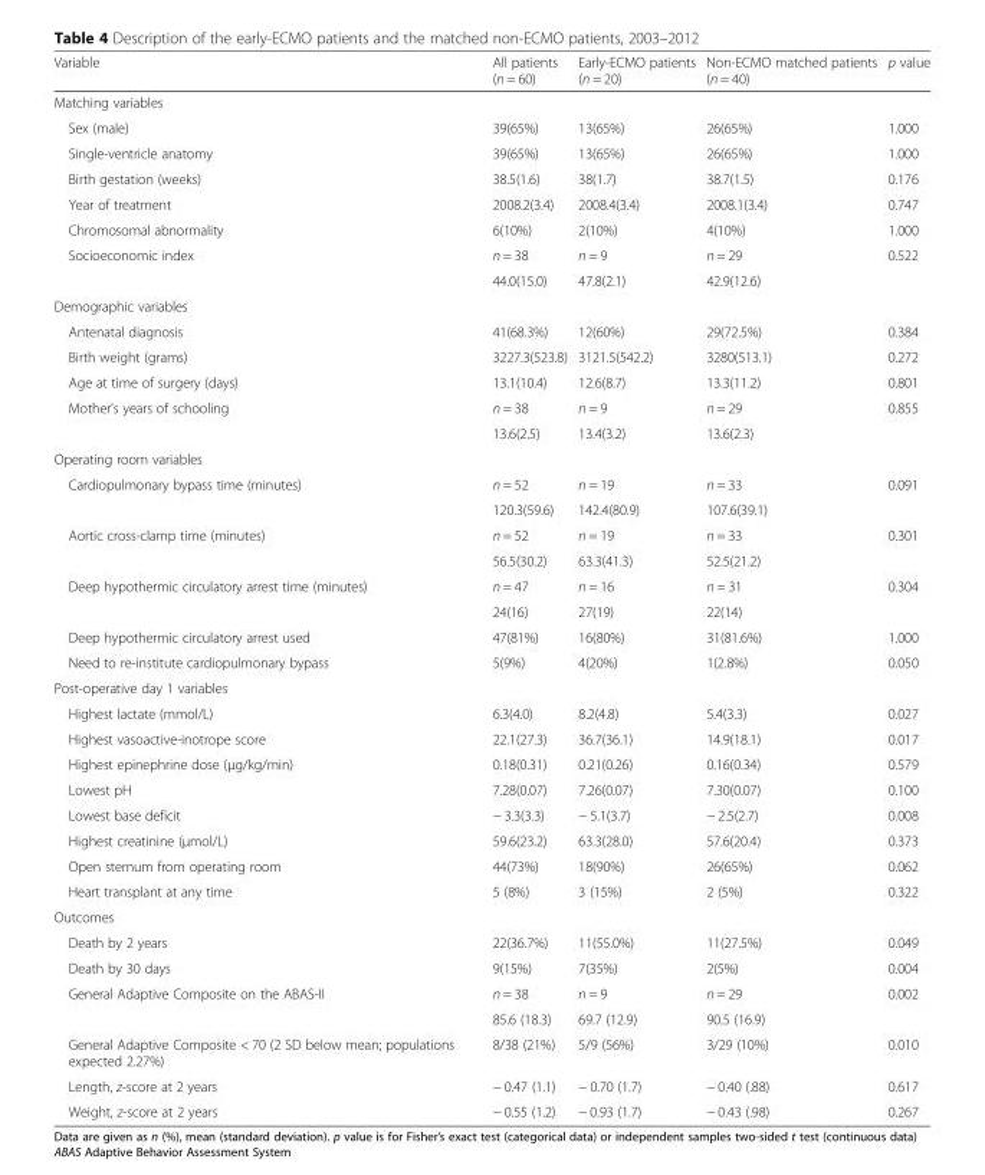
<table><thead><tr><td>Variable</td><td>All patients (n = 60)</td><td>Early-ECMO patients (n = 20)</td><td>Non-ECMO matched patients (n = 40)</td><td>p value</td></tr></thead><tbody><tr><td colspan="5">Matching variables</td></tr><tr><td>Sex (male)</td><td>39(65%)</td><td>13(65%)</td><td>26(65%)</td><td>1.000</td></tr><tr><td>Single-ventricle anatomy</td><td>39(65%)</td><td>13(65%)</td><td>26(65%)</td><td>1.000</td></tr><tr><td>Birth gestation (weeks)</td><td>38.5(1.6)</td><td>38(1.7)</td><td>38.7(1.5)</td><td>0.176</td></tr><tr><td>Year of treatment</td><td>2008.2(3.4)</td><td>2008.4(3.4)</td><td>2008.1(3.4)</td><td>0.747</td></tr><tr><td>Chromosomal abnormality</td><td>6(10%)</td><td>2(10%)</td><td>4(10%)</td><td>1.000</td></tr><tr><td rowspan="2">Socioeconomic index</td><td>n = 38</td><td>n = 9</td><td>n = 29</td><td rowspan="2">0.522</td></tr><tr><td>44.0(15.0)</td><td>47.8(2.1)</td><td>42.9(12.6)</td></tr><tr><td colspan="5">Demographic variables</td></tr><tr><td>Antenatal diagnosis</td><td>41(68.3%)</td><td>12(60%)</td><td>29(72.5%)</td><td>0.384</td></tr><tr><td>Birth weight (grams)</td><td>3227.3(523.8)</td><td>3121.5(542.2)</td><td>3280(513.1)</td><td>0.272</td></tr><tr><td>Age at time of surgery (days)</td><td>13.1(10.4)</td><td>12.6(8.7)</td><td>13.3(11.2)</td><td>0.801</td></tr><tr><td rowspan="2">Mother’s years of schooling</td><td>n = 38</td><td>n = 9</td><td>n = 29</td><td rowspan="2">0.855</td></tr><tr><td>13.6(2.5)</td><td>13.4(3.2)</td><td>13.6(2.3)</td></tr><tr><td colspan="5">Operating room variables</td></tr><tr><td rowspan="2">Cardiopulmonary bypass time (minutes)</td><td>n = 52</td><td>n = 19</td><td>n = 33</td><td rowspan="2">0.091</td></tr><tr><td>120.3(59.6)</td><td>142.4(80.9)</td><td>107.6(39.1)</td></tr><tr><td rowspan="2">Aortic cross-clamp time (minutes)</td><td>n = 52</td><td>n = 19</td><td>n = 33</td><td rowspan="2">0.301</td></tr><tr><td>56.5(30.2)</td><td>63.3(41.3)</td><td>52.5(21.2)</td></tr><tr><td rowspan="2">Deep hypothermic circulatory arrest time (minutes)</td><td>n = 47</td><td>n = 16</td><td>n = 31</td><td rowspan="2">0.304</td></tr><tr><td>24(16)</td><td>27(19)</td><td>22(14)</td></tr><tr><td>Deep hypothermic circulatory arrest used</td><td>47(81%)</td><td>16(80%)</td><td>31(81.6%)</td><td>1.000</td></tr><tr><td>Need to re-institute cardiopulmonary bypass</td><td>5(9%)</td><td>4(20%)</td><td>1(2.8%)</td><td>0.050</td></tr><tr><td colspan="5">Post-operative day 1 variables</td></tr><tr><td>Highest lactate (mmol/L)</td><td>6.3(4.0)</td><td>8.2(4.8)</td><td>5.4(3.3)</td><td>0.027</td></tr><tr><td>Highest vasoactive-inotrope score</td><td>22.1(27.3)</td><td>36.7(36.1)</td><td>14.9(18.1)</td><td>0.017</td></tr><tr><td>Highest epinephrine dose (μg/kg/min)</td><td>0.18(0.31)</td><td>0.21(0.26)</td><td>0.16(0.34)</td><td>0.579</td></tr><tr><td>Lowest pH</td><td>7.28(0.07)</td><td>7.26(0.07)</td><td>7.30(0.07)</td><td>0.100</td></tr><tr><td>Lowest base deficit</td><td>− 3.3(3.3)</td><td>− 5.1(3.7)</td><td>− 2.5(2.7)</td><td>0.008</td></tr><tr><td>Highest creatinine (μmol/L)</td><td>59.6(23.2)</td><td>63.3(28.0)</td><td>57.6(20.4)</td><td>0.373</td></tr><tr><td>Open sternum from operating room</td><td>44(73%)</td><td>18(90%)</td><td>26(65%)</td><td>0.062</td></tr><tr><td>Heart transplant at any time</td><td>5 (8%)</td><td>3 (15%)</td><td>2 (5%)</td><td>0.322</td></tr><tr><td colspan="5">Outcomes</td></tr><tr><td>Death by 2 years</td><td>22(36.7%)</td><td>11(55.0%)</td><td>11(27.5%)</td><td>0.049</td></tr><tr><td>Death by 30 days</td><td>9(15%)</td><td>7(35%)</td><td>2(5%)</td><td>0.004</td></tr><tr><td rowspan="2">General Adaptive Composite on the ABAS-II</td><td>n = 38</td><td>n = 9</td><td>n = 29</td><td rowspan="2">0.002</td></tr><tr><td>85.6 (18.3)</td><td>69.7 (12.9)</td><td>90.5 (16.9)</td></tr><tr><td>General Adaptive Composite &lt; 70 (2 SD below mean; populations expected 2.27%)</td><td>8/38 (21%)</td><td>5/9 (56%)</td><td>3/29 (10%)</td><td>0.010</td></tr><tr><td>Length, z-score at 2 years</td><td>− 0.47 (1.1)</td><td>− 0.70 (1.7)</td><td>− 0.40 (.88)</td><td>0.617</td></tr><tr><td>Weight, z-score at 2 years</td><td>− 0.55 (1.2)</td><td>− 0.93 (1.7)</td><td>− 0.43 (.98)</td><td>0.267</td></tr></tbody></table>